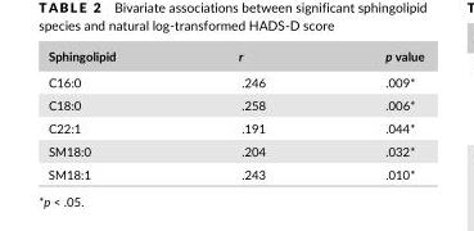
<table><thead><tr><td>Sphingolipid</td><td>r</td><td>p value</td></tr></thead><tbody><tr><td>C16:0</td><td>.246</td><td>.009*</td></tr><tr><td>C18:0</td><td>.258</td><td>.006*</td></tr><tr><td>C22:1</td><td>.191</td><td>.044*</td></tr><tr><td>SM18:0</td><td>.204</td><td>.032*</td></tr><tr><td>SM18:1</td><td>.243</td><td>.010*</td></tr></tbody></table>